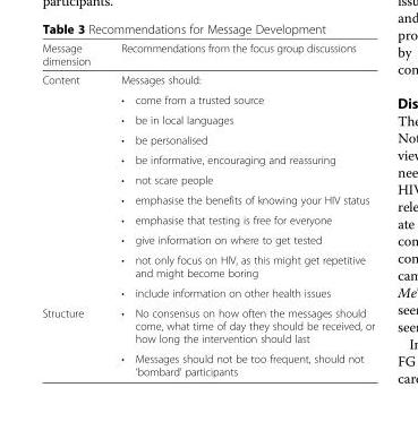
<table><thead><tr><td>Message dimension</td><td>Recommendations from the focus group discussions</td></tr></thead><tbody><tr><td rowspan="11">Content</td><td>Messages should:</td></tr><tr><td>• come from a trusted source</td></tr><tr><td>• be in local languages</td></tr><tr><td>• be personalised</td></tr><tr><td>• be informative, encouraging and reassuring</td></tr><tr><td>• not scare people</td></tr><tr><td>• emphasise the benefits of knowing your HIV status</td></tr><tr><td>• emphasise that testing is free for everyone</td></tr><tr><td>• give information on where to get tested</td></tr><tr><td>• not only focus on HIV, as this might get repetitive and might become boring</td></tr><tr><td>• include information on other health issues</td></tr><tr><td rowspan="2">Structure</td><td>• No consensus on how often the messages should come, what time of day they should be received, or how long the intervention should last</td></tr><tr><td>• Messages should not be too frequent, should not ‘bombard’ participants</td></tr></tbody></table>